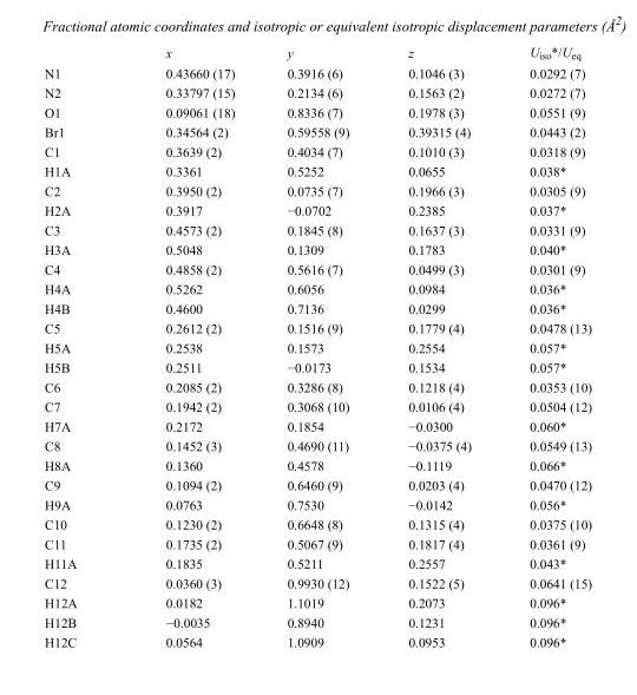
<table><thead><tr><td></td><td>x</td><td>y</td><td>z</td><td>U<sub>iso</sub>*/U<sub>eq</sub></td></tr></thead><tbody><tr><td>N1</td><td>0.43660 (17)</td><td>0.3916 (6)</td><td>0.1046 (3)</td><td>0.0292 (7)</td></tr><tr><td>N2</td><td>0.33797 (15)</td><td>0.2134 (6)</td><td>0.1563 (2)</td><td>0.0272 (7)</td></tr><tr><td>O1</td><td>0.09061 (18)</td><td>0.8336 (7)</td><td>0.1978 (3)</td><td>0.0551 (9)</td></tr><tr><td>Br1</td><td>0.34564 (2)</td><td>0.59558 (9)</td><td>0.39315 (4)</td><td>0.0443 (2)</td></tr><tr><td>C1</td><td>0.3639 (2)</td><td>0.4034 (7)</td><td>0.1010 (3)</td><td>0.0318 (9)</td></tr><tr><td>H1A</td><td>0.3361</td><td>0.5252</td><td>0.0655</td><td>0.038*</td></tr><tr><td>C2</td><td>0.3950 (2)</td><td>0.0735 (7)</td><td>0.1966 (3)</td><td>0.0305 (9)</td></tr><tr><td>H2A</td><td>0.3917</td><td>−0.0702</td><td>0.2385</td><td>0.037*</td></tr><tr><td>C3</td><td>0.4573 (2)</td><td>0.1845 (8)</td><td>0.1637 (3)</td><td>0.0331 (9)</td></tr><tr><td>H3A</td><td>0.5048</td><td>0.1309</td><td>0.1783</td><td>0.040*</td></tr><tr><td>C4</td><td>0.4858 (2)</td><td>0.5616 (7)</td><td>0.0499 (3)</td><td>0.0301 (9)</td></tr><tr><td>H4A</td><td>0.5262</td><td>0.6056</td><td>0.0984</td><td>0.036*</td></tr><tr><td>H4B</td><td>0.4600</td><td>0.7136</td><td>0.0299</td><td>0.036*</td></tr><tr><td>C5</td><td>0.2612 (2)</td><td>0.1516 (9)</td><td>0.1779 (4)</td><td>0.0478 (13)</td></tr><tr><td>H5A</td><td>0.2538</td><td>0.1573</td><td>0.2554</td><td>0.057*</td></tr><tr><td>H5B</td><td>0.2511</td><td>−0.0173</td><td>0.1534</td><td>0.057*</td></tr><tr><td>C6</td><td>0.2085 (2)</td><td>0.3286 (8)</td><td>0.1218 (4)</td><td>0.0353 (10)</td></tr><tr><td>C7</td><td>0.1942 (2)</td><td>0.3068 (10)</td><td>0.0106 (4)</td><td>0.0504 (12)</td></tr><tr><td>H7A</td><td>0.2172</td><td>0.1854</td><td>−0.0300</td><td>0.060*</td></tr><tr><td>C8</td><td>0.1452 (3)</td><td>0.4690 (11)</td><td>−0.0375 (4)</td><td>0.0549 (13)</td></tr><tr><td>H8A</td><td>0.1360</td><td>0.4578</td><td>−0.1119</td><td>0.066*</td></tr><tr><td>C9</td><td>0.1094 (2)</td><td>0.6460 (9)</td><td>0.0203 (4)</td><td>0.0470 (12)</td></tr><tr><td>H9A</td><td>0.0763</td><td>0.7530</td><td>−0.0142</td><td>0.056*</td></tr><tr><td>C10</td><td>0.1230 (2)</td><td>0.6648 (8)</td><td>0.1315 (4)</td><td>0.0375 (10)</td></tr><tr><td>C11</td><td>0.1735 (2)</td><td>0.5067 (9)</td><td>0.1817 (4)</td><td>0.0361 (9)</td></tr><tr><td>H11A</td><td>0.1835</td><td>0.5211</td><td>0.2557</td><td>0.043*</td></tr><tr><td>C12</td><td>0.0360 (3)</td><td>0.9930 (12)</td><td>0.1522 (5)</td><td>0.0641 (15)</td></tr><tr><td>H12A</td><td>0.0182</td><td>1.1019</td><td>0.2073</td><td>0.096*</td></tr><tr><td>H12B</td><td>−0.0035</td><td>0.8940</td><td>0.1231</td><td>0.096*</td></tr><tr><td>H12C</td><td>0.0564</td><td>1.0909</td><td>0.0953</td><td>0.096*</td></tr></tbody></table>